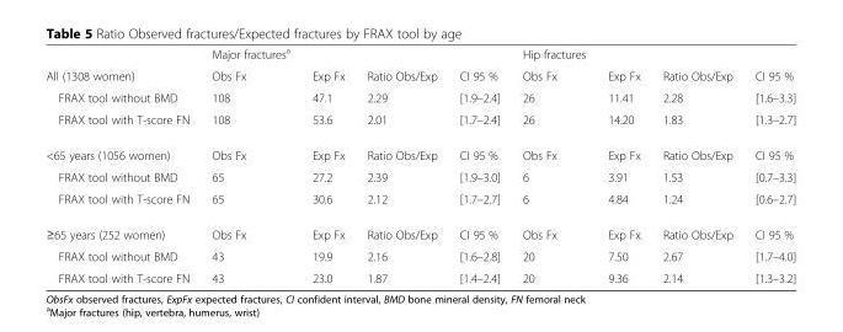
<table><thead><tr><td></td><td>Major fractures<sup>a</sup></td><td></td><td></td><td></td><td>Hip fractures</td><td></td><td></td><td></td></tr></thead><tbody><tr><td>All (1308 women)</td><td>Obs Fx</td><td>Exp Fx</td><td>Ratio Obs/Exp</td><td>CI 95 %</td><td>Obs Fx</td><td>Exp Fx</td><td>Ratio Obs/Exp</td><td>CI 95 %</td></tr><tr><td>FRAX tool without BMD</td><td>108</td><td>47.1</td><td>2.29</td><td>[1.9–2.4]</td><td>26</td><td>11.41</td><td>2.28</td><td>[1.6–3.3]</td></tr><tr><td>FRAX tool with T-score FN</td><td>108</td><td>53.6</td><td>2.01</td><td>[1.7–2.4]</td><td>26</td><td>14.20</td><td>1.83</td><td>[1.3–2.7]</td></tr><tr><td>&lt;65 years (1056 women)</td><td>Obs Fx</td><td>Exp Fx</td><td>Ratio Obs/Exp</td><td>CI 95 %</td><td>Obs Fx</td><td>Exp Fx</td><td>Ratio Obs/Exp</td><td>CI 95 %</td></tr><tr><td>FRAX tool without BMD</td><td>65</td><td>27.2</td><td>2.39</td><td>[1.9–3.0]</td><td>6</td><td>3.91</td><td>1.53</td><td>[0.7–3.3]</td></tr><tr><td>FRAX tool with T-score FN</td><td>65</td><td>30.6</td><td>2.12</td><td>[1.7–2.7]</td><td>6</td><td>4.84</td><td>1.24</td><td>[0.6–2.7]</td></tr><tr><td>≥65 years (252 women)</td><td>Obs Fx</td><td>Exp Fx</td><td>Ratio Obs/Exp</td><td>CI 95 %</td><td>Obs Fx</td><td>Exp Fx</td><td>Ratio Obs/Exp</td><td>CI 95 %</td></tr><tr><td>FRAX tool without BMD</td><td>43</td><td>19.9</td><td>2.16</td><td>[1.6–2.8]</td><td>20</td><td>7.50</td><td>2.67</td><td>[1.7–4.0]</td></tr><tr><td>FRAX tool with T-score FN</td><td>43</td><td>23.0</td><td>1.87</td><td>[1.4–2.4]</td><td>20</td><td>9.36</td><td>2.14</td><td>[1.3–3.2]</td></tr></tbody></table>